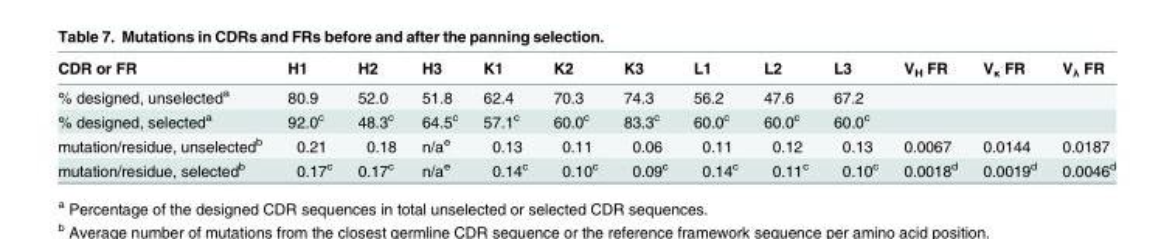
<table><thead><tr><td>CDR or FR</td><td>H1</td><td>H2</td><td>H3</td><td>K1</td><td>K2</td><td>K3</td><td>L1</td><td>L2</td><td>L3</td><td>V<sub>H</sub> FR</td><td>V<sub>κ</sub> FR</td><td>V<sub>λ</sub> FR</td></tr></thead><tbody><tr><td>% designed, unselected<sup>a</sup></td><td>80.9</td><td>52.0</td><td>51.8</td><td>62.4</td><td>70.3</td><td>74.3</td><td>56.2</td><td>47.6</td><td>67.2</td><td></td><td></td><td></td></tr><tr><td>% designed, selected<sup>a</sup></td><td>92.0<sup>c</sup></td><td>48.3<sup>c</sup></td><td>64.5<sup>c</sup></td><td>57.1<sup>c</sup></td><td>60.0<sup>c</sup></td><td>83.3<sup>c</sup></td><td>60.0<sup>c</sup></td><td>60.0<sup>c</sup></td><td>60.0<sup>c</sup></td><td></td><td></td><td></td></tr><tr><td>mutation/residue, unselected<sup>b</sup></td><td>0.21</td><td>0.18</td><td>n/a<sup>e</sup></td><td>0.13</td><td>0.11</td><td>0.06</td><td>0.11</td><td>0.12</td><td>0.13</td><td>0.0067</td><td>0.0144</td><td>0.0187</td></tr><tr><td>mutation/residue, selected<sup>b</sup></td><td>0.17<sup>c</sup></td><td>0.17<sup>c</sup></td><td>n/a<sup>e</sup></td><td>0.14<sup>c</sup></td><td>0.10<sup>c</sup></td><td>0.09<sup>c</sup></td><td>0.14<sup>c</sup></td><td>0.11<sup>c</sup></td><td>0.10<sup>c</sup></td><td>0.0018<sup>d</sup></td><td>0.0019<sup>d</sup></td><td>0.0046<sup>d</sup></td></tr></tbody></table>